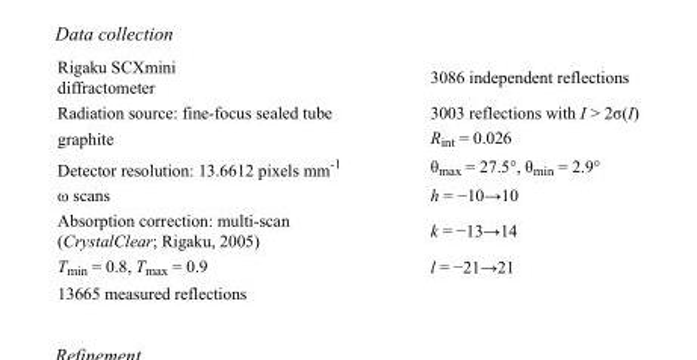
<table><tbody><tr><td>Rigaku SCXmini diffractometer</td><td>3086 independent reflections</td></tr><tr><td>Radiation source: fine-focus sealed tube</td><td>3003 reflections with I &gt; 2σ(I)</td></tr><tr><td>graphite</td><td>R<sub>int</sub> = 0.026</td></tr><tr><td>Detector resolution: 13.6612 pixels mm<sup>-1</sup></td><td>θ<sub>max</sub> = 27.5°, θ<sub>min</sub> = 2.9°</td></tr><tr><td>ω scans</td><td>h = −10→10</td></tr><tr><td>Absorption correction: multi-scan (CrystalClear; Rigaku, 2005)</td><td>k = −13→14</td></tr><tr><td>T<sub>min</sub> = 0.8, T<sub>max</sub> = 0.9</td><td>l = −21→21</td></tr><tr><td>13665 measured reflections</td><td></td></tr></tbody></table>